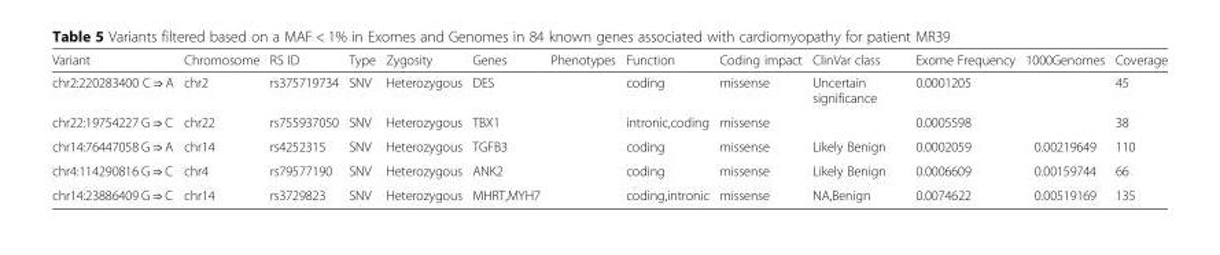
<table><thead><tr><td>Variant</td><td>Chromosome</td><td>RS ID</td><td>Type</td><td>Zygosity</td><td>Genes</td><td>Phenotypes</td><td>Function</td><td>Coding impact</td><td>ClinVar class</td><td>Exome Frequency</td><td>1000Genomes</td><td>Coverage</td></tr></thead><tbody><tr><td>chr2:220283400 C ⇒ A</td><td>chr2</td><td>rs375719734</td><td>SNV</td><td>Heterozygous</td><td>DES</td><td></td><td>coding</td><td>missense</td><td>Uncertain significance</td><td>0.0001205</td><td></td><td>45</td></tr><tr><td>chr22:19754227 G ⇒ C</td><td>chr22</td><td>rs755937050</td><td>SNV</td><td>Heterozygous</td><td>TBX1</td><td></td><td>intronic,coding</td><td>missense</td><td></td><td>0.0005598</td><td></td><td>38</td></tr><tr><td>chr14:76447058 G ⇒ A</td><td>chr14</td><td>rs4252315</td><td>SNV</td><td>Heterozygous</td><td>TGFB3</td><td></td><td>coding</td><td>missense</td><td>Likely Benign</td><td>0.0002059</td><td>0.00219649</td><td>110</td></tr><tr><td>chr4:114290816 G ⇒ C</td><td>chr4</td><td>rs79577190</td><td>SNV</td><td>Heterozygous</td><td>ANK2</td><td></td><td>coding</td><td>missense</td><td>Likely Benign</td><td>0.0006609</td><td>0.00159744</td><td>66</td></tr><tr><td>chr14:23886409 G ⇒ C</td><td>chr14</td><td>rs3729823</td><td>SNV</td><td>Heterozygous</td><td>MHRT,MYH7</td><td></td><td>coding,intronic</td><td>missense</td><td>NA,Benign</td><td>0.0074622</td><td>0.00519169</td><td>135</td></tr></tbody></table>